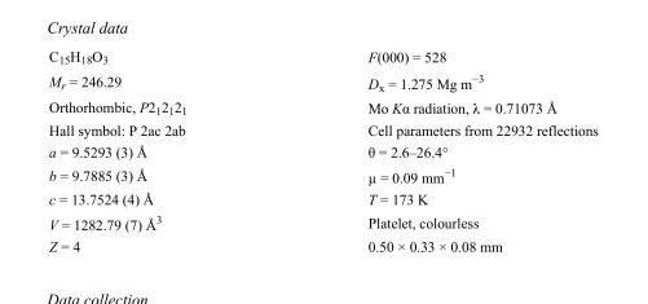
<table><tbody><tr><td>C<sub>15</sub>H<sub>18</sub>O<sub>3</sub></td><td>F(000) = 528</td></tr><tr><td>M<sub>r</sub> = 246.29</td><td>D<sub>x</sub> = 1.275 Mg m<sup>−3</sup></td></tr><tr><td>Orthorhombic, P2<sub>1</sub>2<sub>1</sub>2<sub>1</sub></td><td>Mo Kα radiation, λ = 0.71073 Å</td></tr><tr><td>Hall symbol: P 2ac 2ab</td><td>Cell parameters from 22932 reflections</td></tr><tr><td>a = 9.5293 (3) Å</td><td>θ = 2.6–26.4°</td></tr><tr><td>b = 9.7885 (3) Å</td><td>µ = 0.09 mm<sup>−1</sup></td></tr><tr><td>c = 13.7524 (4) Å</td><td>T = 173 K</td></tr><tr><td>V = 1282.79 (7) Å<sup>3</sup></td><td>Platelet, colourless</td></tr><tr><td>Z = 4</td><td>0.50 × 0.33 × 0.08 mm</td></tr></tbody></table>